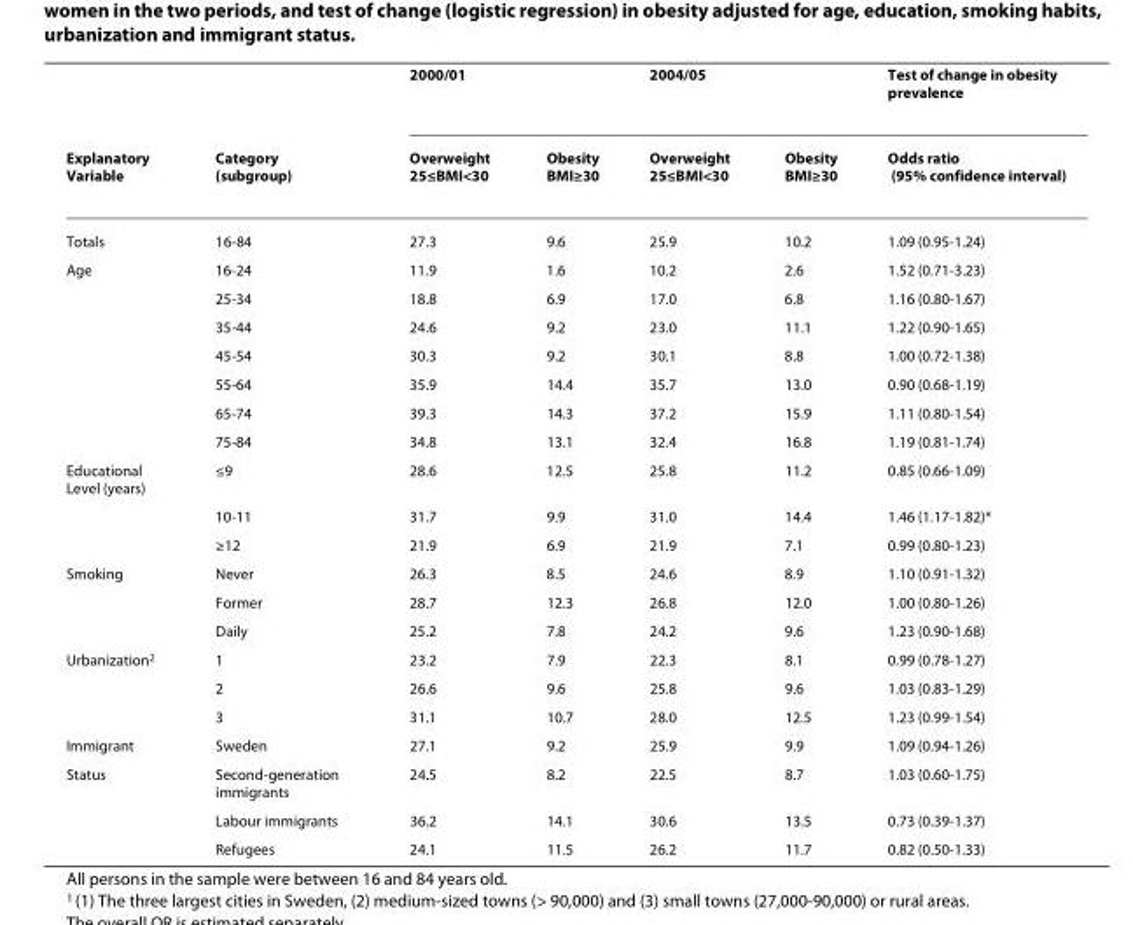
<table><thead><tr><td rowspan="2">Explanatory Variable</td><td rowspan="2">Category (subgroup)</td><td colspan="2">2000/01</td><td colspan="2">2004/05</td><td rowspan="2">Test of change in obesity prevalence Odds ratio (95% confidence interval)</td></tr><tr><td>Overweight 25≤BMI&lt;30</td><td>Obesity BMI≥30</td><td>Overweight 25≤BMI&lt;30</td><td>Obesity BMI≥30</td></tr></thead><tbody><tr><td>Totals</td><td>16-84</td><td>27.3</td><td>9.6</td><td>25.9</td><td>10.2</td><td>1.09 (0.95-1.24)</td></tr><tr><td rowspan="7">Age</td><td>16-24</td><td>11.9</td><td>1.6</td><td>10.2</td><td>2.6</td><td>1.52 (0.71-3.23)</td></tr><tr><td>25-34</td><td>18.8</td><td>6.9</td><td>17.0</td><td>6.8</td><td>1.16 (0.80-1.67)</td></tr><tr><td>35-44</td><td>24.6</td><td>9.2</td><td>23.0</td><td>11.1</td><td>1.22 (0.90-1.65)</td></tr><tr><td>45-54</td><td>30.3</td><td>9.2</td><td>30.1</td><td>8.8</td><td>1.00 (0.72-1.38)</td></tr><tr><td>55-64</td><td>35.9</td><td>14.4</td><td>35.7</td><td>13.0</td><td>0.90 (0.68-1.19)</td></tr><tr><td>65-74</td><td>39.3</td><td>14.3</td><td>37.2</td><td>15.9</td><td>1.11 (0.80-1.54)</td></tr><tr><td>75-84</td><td>34.8</td><td>13.1</td><td>32.4</td><td>16.8</td><td>1.19 (0.81-1.74)</td></tr><tr><td rowspan="3">Educational Level (years)</td><td>≤9</td><td>28.6</td><td>12.5</td><td>25.8</td><td>11.2</td><td>0.85 (0.66-1.09)</td></tr><tr><td>10-11</td><td>31.7</td><td>9.9</td><td>31.0</td><td>14.4</td><td>1.46 (1.17-1.82)*</td></tr><tr><td>≥12</td><td>21.9</td><td>6.9</td><td>21.9</td><td>7.1</td><td>0.99 (0.80-1.23)</td></tr><tr><td rowspan="3">Smoking</td><td>Never</td><td>26.3</td><td>8.5</td><td>24.6</td><td>8.9</td><td>1.10 (0.91-1.32)</td></tr><tr><td>Former</td><td>28.7</td><td>12.3</td><td>26.8</td><td>12.0</td><td>1.00 (0.80-1.26)</td></tr><tr><td>Daily</td><td>25.2</td><td>7.8</td><td>24.2</td><td>9.6</td><td>1.23 (0.90-1.68)</td></tr><tr><td rowspan="3">Urbanization<sup>2</sup></td><td>1</td><td>23.2</td><td>7.9</td><td>22.3</td><td>8.1</td><td>0.99 (0.78-1.27)</td></tr><tr><td>2</td><td>26.6</td><td>9.6</td><td>25.8</td><td>9.6</td><td>1.03 (0.83-1.29)</td></tr><tr><td>3</td><td>31.1</td><td>10.7</td><td>28.0</td><td>12.5</td><td>1.23 (0.99-1.54)</td></tr><tr><td>Immigrant</td><td>Sweden</td><td>27.1</td><td>9.2</td><td>25.9</td><td>9.9</td><td>1.09 (0.94-1.26)</td></tr><tr><td rowspan="3">Status</td><td>Second-generation immigrants</td><td>24.5</td><td>8.2</td><td>22.5</td><td>8.7</td><td>1.03 (0.60-1.75)</td></tr><tr><td>Labour immigrants</td><td>36.2</td><td>14.1</td><td>30.6</td><td>13.5</td><td>0.73 (0.39-1.37)</td></tr><tr><td>Refugees</td><td>24.1</td><td>11.5</td><td>26.2</td><td>11.7</td><td>0.82 (0.50-1.33)</td></tr></tbody></table>